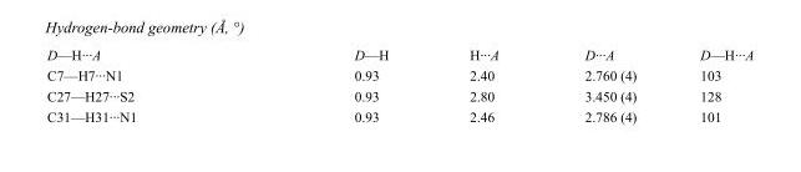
<table><tbody><tr><td>D—H···A</td><td>D—H</td><td>H···A</td><td>D···A</td><td>D—H···A</td></tr><tr><td>C7—H7···N1</td><td>0.93</td><td>2.40</td><td>2.760 (4)</td><td>103</td></tr><tr><td>C27—H27···S2</td><td>0.93</td><td>2.80</td><td>3.450 (4)</td><td>128</td></tr><tr><td>C31—H31···N1</td><td>0.93</td><td>2.46</td><td>2.786 (4)</td><td>101</td></tr></tbody></table>